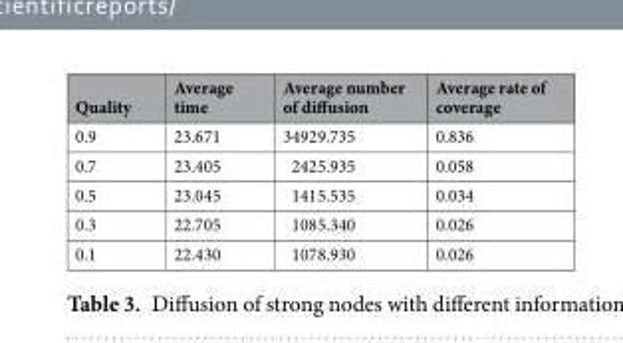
<table><thead><tr><td>Quality</td><td>Average time</td><td>Average number of diffusion</td><td>Average rate of coverage</td></tr></thead><tbody><tr><td>0.9</td><td>23.671</td><td>34929.735</td><td>0.836</td></tr><tr><td>0.7</td><td>23.405</td><td>2425.935</td><td>0.058</td></tr><tr><td>0.5</td><td>23.045</td><td>1415.535</td><td>0.034</td></tr><tr><td>0.3</td><td>22.705</td><td>1085.340</td><td>0.026</td></tr><tr><td>0.1</td><td>22.430</td><td>1078.930</td><td>0.026</td></tr></tbody></table>